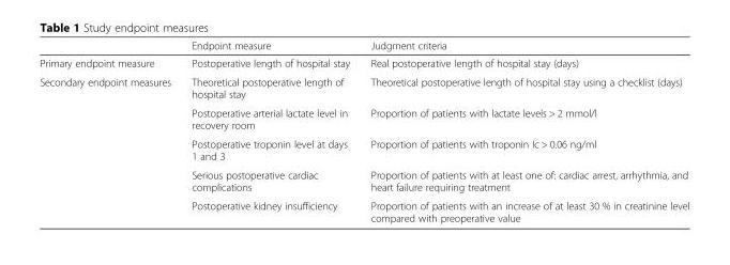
<table><thead><tr><td></td><td>Endpoint measure</td><td>Judgment criteria</td></tr></thead><tbody><tr><td>Primary endpoint measure</td><td>Postoperative length of hospital stay</td><td>Real postoperative length of hospital stay (days)</td></tr><tr><td rowspan="5">Secondary endpoint measures</td><td>Theoretical postoperative length of hospital stay</td><td>Theoretical postoperative length of hospital stay using a checklist (days)</td></tr><tr><td>Postoperative arterial lactate level in recovery room</td><td>Proportion of patients with lactate levels &gt; 2 mmol/l</td></tr><tr><td>Postoperative troponin level at days 1 and 3</td><td>Proportion of patients with troponin Ic &gt; 0.06 ng/ml</td></tr><tr><td>Serious postoperative cardiac complications</td><td>Proportion of patients with at least one of: cardiac arrest, arrhythmia, and heart failure requiring treatment</td></tr><tr><td>Postoperative kidney insufficiency</td><td>Proportion of patients with an increase of at least 30 % in creatinine level compared with preoperative value</td></tr></tbody></table>